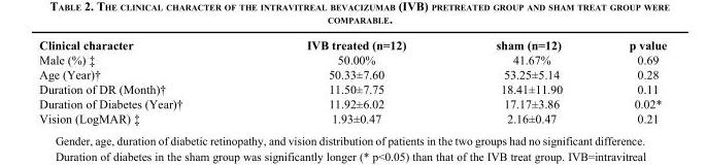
<table><thead><tr><td>Clinical character</td><td>IVB treated (n=12)</td><td>sham (n=12)</td><td>p value</td></tr></thead><tbody><tr><td>Male (%) ‡</td><td>50.00%</td><td>41.67%</td><td>0.69</td></tr><tr><td>Age (Year)†</td><td>50.33±7.60</td><td>53.25±5.14</td><td>0.28</td></tr><tr><td>Duration of DR (Month)†</td><td>11.50±7.75</td><td>18.41±11.90</td><td>0.11</td></tr><tr><td>Duration of Diabetes (Year)†</td><td>11.92±6.02</td><td>17.17±3.86</td><td>0.02*</td></tr><tr><td>Vision (LogMAR) ‡</td><td>1.93±0.47</td><td>2.16±0.47</td><td>0.21</td></tr></tbody></table>